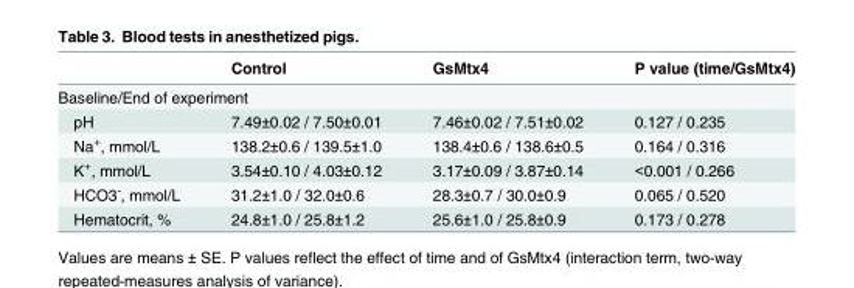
<table><thead><tr><td></td><td>Control</td><td>GsMtx4</td><td>P value (time/GsMtx4)</td></tr></thead><tbody><tr><td colspan="4">Baseline/End of experiment</td></tr><tr><td>pH</td><td>7.49±0.02 / 7.50±0.01</td><td>7.46±0.02 / 7.51±0.02</td><td>0.127 / 0.235</td></tr><tr><td>Na<sup>+</sup>, mmol/L</td><td>138.2±0.6 / 139.5±1.0</td><td>138.4±0.6 / 138.6±0.5</td><td>0.164 / 0.316</td></tr><tr><td>K<sup>+</sup>, mmol/L</td><td>3.54±0.10 / 4.03±0.12</td><td>3.17±0.09 / 3.87±0.14</td><td>&lt;0.001 / 0.266</td></tr><tr><td>HCO3<sup>-</sup>, mmol/L</td><td>31.2±1.0 / 32.0±0.6</td><td>28.3±0.7 / 30.0±0.9</td><td>0.065 / 0.520</td></tr><tr><td>Hematocrit, %</td><td>24.8±1.0 / 25.8±1.2</td><td>25.6±1.0 / 25.8±0.9</td><td>0.173 / 0.278</td></tr></tbody></table>